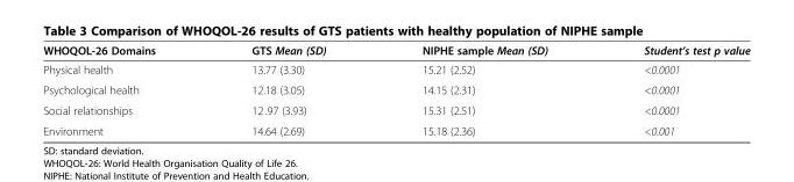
<table><thead><tr><td>WHOQOL-26 Domains</td><td>GTS Mean (SD)</td><td>NIPHE sample Mean (SD)</td><td>Student’s test p value</td></tr></thead><tbody><tr><td>Physical health</td><td>13.77 (3.30)</td><td>15.21 (2.52)</td><td>&lt;0.0001</td></tr><tr><td>Psychological health</td><td>12.18 (3.05)</td><td>14.15 (2.31)</td><td>&lt;0.0001</td></tr><tr><td>Social relationships</td><td>12 .97 (3.93)</td><td>15.31 (2.51)</td><td>&lt;0.0001</td></tr><tr><td>Environment</td><td>14.64 (2.69)</td><td>15.18 (2.36)</td><td>&lt;0.001</td></tr></tbody></table>